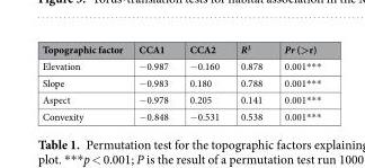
<table><thead><tr><td>Topographic factor</td><td>CCA1</td><td>CCA2</td><td>R<sup>2</sup></td><td>Pr (&gt;r)</td></tr></thead><tbody><tr><td>Elevation</td><td>−0.987</td><td>−0.160</td><td>0.878</td><td>0.001***</td></tr><tr><td>Slope</td><td>−0.983</td><td>0.180</td><td>0.788</td><td>0.001***</td></tr><tr><td>Aspect</td><td>−0.978</td><td>0.205</td><td>0.141</td><td>0.001***</td></tr><tr><td>Convexity</td><td>−0.848</td><td>−0.531</td><td>0.538</td><td>0.001***</td></tr></tbody></table>